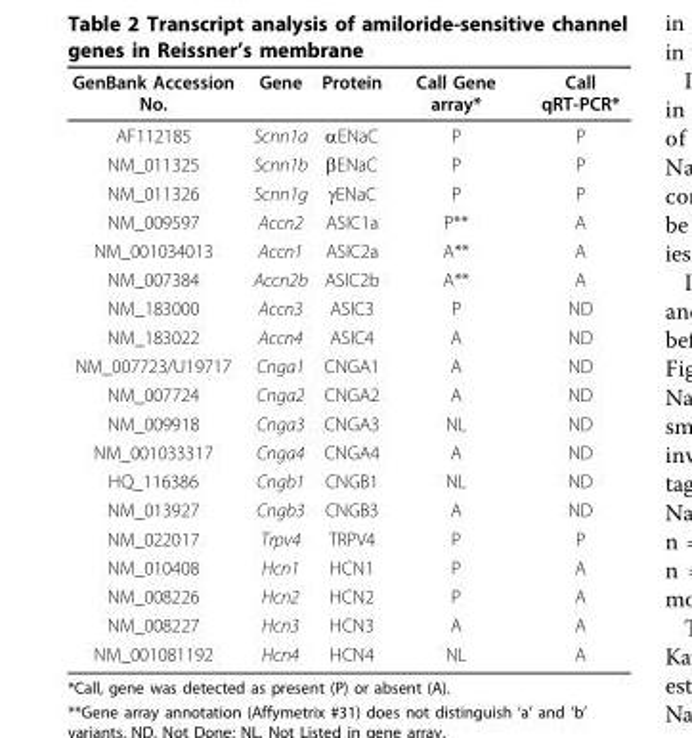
<table><thead><tr><td>GenBank Accession No.</td><td>Gene</td><td>Protein</td><td>Call Gene array*</td><td>Call qRT-PCR*</td></tr></thead><tbody><tr><td>AF112185</td><td>Scnn1a</td><td>αENaC</td><td>P</td><td>P</td></tr><tr><td>NM_011325</td><td>Scnn1b</td><td>βENaC</td><td>P</td><td>P</td></tr><tr><td>NM_011326</td><td>Scnn1g</td><td>γENaC</td><td>P</td><td>P</td></tr><tr><td>NM_009597</td><td>Accn2</td><td>ASIC1a</td><td>P**</td><td>A</td></tr><tr><td>NM_001034013</td><td>Accn1</td><td>ASIC2a</td><td>A**</td><td>A</td></tr><tr><td>NM_007384</td><td>Accn2b</td><td>ASIC2b</td><td>A**</td><td>A</td></tr><tr><td>NM_183000</td><td>Accn3</td><td>ASIC3</td><td>P</td><td>ND</td></tr><tr><td>NM_183022</td><td>Accn4</td><td>ASIC4</td><td>A</td><td>ND</td></tr><tr><td>NM_007723/U19717</td><td>Cnga1</td><td>CNGA1</td><td>A</td><td>ND</td></tr><tr><td>NM_007724</td><td>Cnga2</td><td>CNGA2</td><td>A</td><td>ND</td></tr><tr><td>NM_009918</td><td>Cnga3</td><td>CNGA3</td><td>NL</td><td>ND</td></tr><tr><td>NM_001033317</td><td>Cnga4</td><td>CNGA4</td><td>A</td><td>ND</td></tr><tr><td>HQ_116386</td><td>Cngb1</td><td>CNGB1</td><td>NL</td><td>ND</td></tr><tr><td>NM_013927</td><td>Cngb3</td><td>CNGB3</td><td>A</td><td>ND</td></tr><tr><td>NM_022017</td><td>Trpv4</td><td>TRPV4</td><td>P</td><td>P</td></tr><tr><td>NM_010408</td><td>Hcn1</td><td>HCN1</td><td>P</td><td>A</td></tr><tr><td>NM_008226</td><td>Hcn2</td><td>HCN2</td><td>P</td><td>A</td></tr><tr><td>NM_008227</td><td>Hcn3</td><td>HCN3</td><td>A</td><td>A</td></tr><tr><td>NM_001081192</td><td>Hcn4</td><td>HCN4</td><td>NL</td><td>A</td></tr></tbody></table>